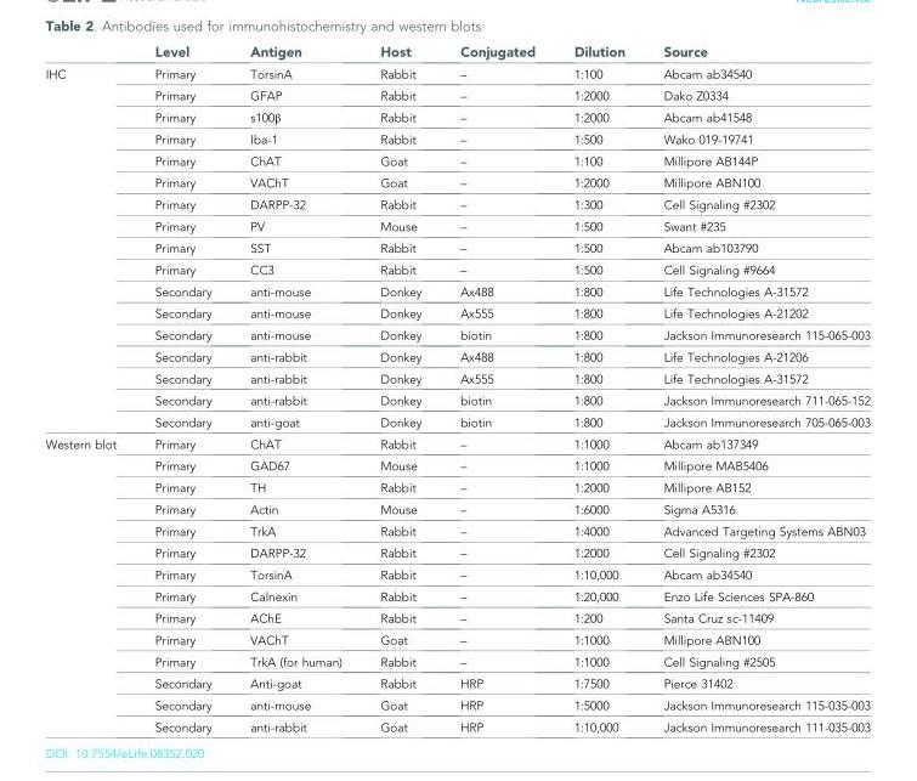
<table><thead><tr><td></td><td>Level</td><td>Antigen</td><td>Host</td><td>Conjugated</td><td>Dilution</td><td>Source</td></tr></thead><tbody><tr><td rowspan="17">IHC</td><td>Primary</td><td>TorsinA</td><td>Rabbit</td><td>–</td><td>1:100</td><td>Abcam ab34540</td></tr><tr><td>Primary</td><td>GFAP</td><td>Rabbit</td><td>–</td><td>1:2000</td><td>Dako Z0334</td></tr><tr><td>Primary</td><td>s100β</td><td>Rabbit</td><td>–</td><td>1:2000</td><td>Abcam ab41548</td></tr><tr><td>Primary</td><td>Iba-1</td><td>Rabbit</td><td>–</td><td>1:500</td><td>Wako 019-19741</td></tr><tr><td>Primary</td><td>ChAT</td><td>Goat</td><td>–</td><td>1:100</td><td>Millipore AB144P</td></tr><tr><td>Primary</td><td>VAChT</td><td>Goat</td><td>–</td><td>1:2000</td><td>Millipore ABN100</td></tr><tr><td>Primary</td><td>DARPP-32</td><td>Rabbit</td><td>–</td><td>1:300</td><td>Cell Signaling #2302</td></tr><tr><td>Primary</td><td>PV</td><td>Mouse</td><td>–</td><td>1:500</td><td>Swant #235</td></tr><tr><td>Primary</td><td>SST</td><td>Rabbit</td><td>–</td><td>1:500</td><td>Abcam ab103790</td></tr><tr><td>Primary</td><td>CC3</td><td>Rabbit</td><td>–</td><td>1:500</td><td>Cell Signaling #9664</td></tr><tr><td>Secondary</td><td>anti-mouse</td><td>Donkey</td><td>Ax488</td><td>1:800</td><td>Life Technologies A-31572</td></tr><tr><td>Secondary</td><td>anti-mouse</td><td>Donkey</td><td>Ax555</td><td>1:800</td><td>Life Technologies A-21202</td></tr><tr><td>Secondary</td><td>anti-mouse</td><td>Donkey</td><td>biotin</td><td>1:800</td><td>Jackson Immunoresearch 115-065-003</td></tr><tr><td>Secondary</td><td>anti-rabbit</td><td>Donkey</td><td>Ax488</td><td>1:800</td><td>Life Technologies A-21206</td></tr><tr><td>Secondary</td><td>anti-rabbit</td><td>Donkey</td><td>Ax555</td><td>1:800</td><td>Life Technologies A-31572</td></tr><tr><td>Secondary</td><td>anti-rabbit</td><td>Donkey</td><td>biotin</td><td>1:800</td><td>Jackson Immunoresearch 711-065-152</td></tr><tr><td>Secondary</td><td>anti-goat</td><td>Donkey</td><td>biotin</td><td>1:800</td><td>Jackson Immunoresearch 705-065-003</td></tr><tr><td rowspan="14">Western blot</td><td>Primary</td><td>ChAT</td><td>Rabbit</td><td>–</td><td>1:1000</td><td>Abcam ab137349</td></tr><tr><td>Primary</td><td>GAD67</td><td>Mouse</td><td>–</td><td>1:1000</td><td>Millipore MAB5406</td></tr><tr><td>Primary</td><td>TH</td><td>Rabbit</td><td>–</td><td>1:2000</td><td>Millipore AB152</td></tr><tr><td>Primary</td><td>Actin</td><td>Mouse</td><td>–</td><td>1:6000</td><td>Sigma A5316</td></tr><tr><td>Primary</td><td>TrkA</td><td>Rabbit</td><td>–</td><td>1:4000</td><td>Advanced Targeting Systems ABN03</td></tr><tr><td>Primary</td><td>DARPP-32</td><td>Rabbit</td><td>–</td><td>1:2000</td><td>Cell Signaling #2302</td></tr><tr><td>Primary</td><td>TorsinA</td><td>Rabbit</td><td>–</td><td>1:10,000</td><td>Abcam ab34540</td></tr><tr><td>Primary</td><td>Calnexin</td><td>Rabbit</td><td>–</td><td>1:20,000</td><td>Enzo Life Sciences SPA-860</td></tr><tr><td>Primary</td><td>AChE</td><td>Rabbit</td><td>–</td><td>1:200</td><td>Santa Cruz sc-11409</td></tr><tr><td>Primary</td><td>VAChT</td><td>Goat</td><td>–</td><td>1:1000</td><td>Millipore ABN100</td></tr><tr><td>Primary</td><td>TrkA (for human)</td><td>Rabbit</td><td>–</td><td>1:1000</td><td>Cell Signaling #2505</td></tr><tr><td>Secondary</td><td>Anti-goat</td><td>Rabbit</td><td>HRP</td><td>1:7500</td><td>Pierce 31402</td></tr><tr><td>Secondary</td><td>anti-mouse</td><td>Goat</td><td>HRP</td><td>1:5000</td><td>Jackson Immunoresearch 115-035-003</td></tr><tr><td>Secondary</td><td>anti-rabbit</td><td>Goat</td><td>HRP</td><td>1:10,000</td><td>Jackson Immunoresearch 111-035-003</td></tr></tbody></table>